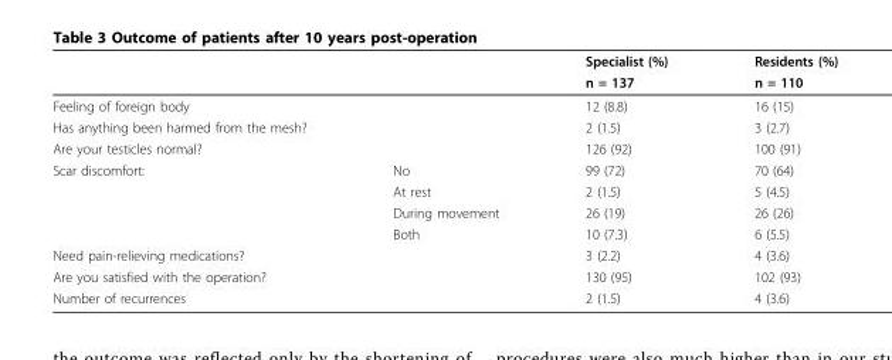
<table><thead><tr><td rowspan="2"></td><td rowspan="2"></td><td rowspan="2">Specialist (%) n = 137</td><td rowspan="2">Residents (%) n = 110</td></tr><tr></tr></thead><tbody><tr><td>Feeling of foreign body</td><td></td><td>12 (8.8)</td><td>16 (15)</td></tr><tr><td>Has anything been harmed from the mesh?</td><td></td><td>2 (1.5)</td><td>3 (2.7)</td></tr><tr><td>Are your testicles normal?</td><td></td><td>126 (92)</td><td>100 (91)</td></tr><tr><td rowspan="4">Scar discomfort:</td><td>No</td><td>99 (72)</td><td>70 (64)</td></tr><tr><td>At rest</td><td>2 (1.5)</td><td>5 (4.5)</td></tr><tr><td>During movement</td><td>26 (19)</td><td>26 (26)</td></tr><tr><td>Both</td><td>10 (7.3)</td><td>6 (5.5)</td></tr><tr><td>Need pain-relieving medications?</td><td></td><td>3 (2.2)</td><td>4 (3.6)</td></tr><tr><td>Are you satisfied with the operation?</td><td></td><td>130 (95)</td><td>102 (93)</td></tr><tr><td>Number of recurrences</td><td></td><td>2 (1.5)</td><td>4 (3.6)</td></tr></tbody></table>